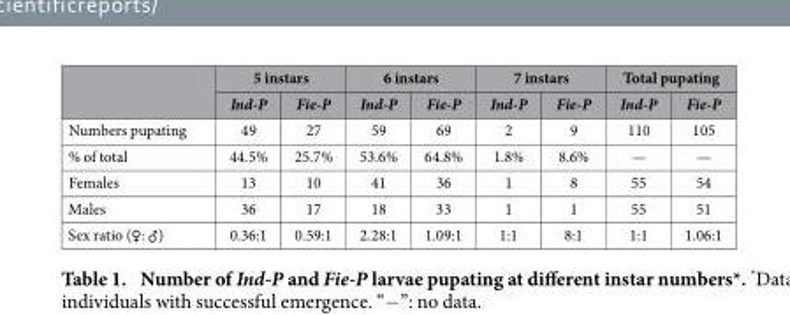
<table><thead><tr><td rowspan="2"></td><td colspan="2">5 instars</td><td colspan="2">6 instars</td><td colspan="2">7 instars</td><td colspan="2">Total pupating</td></tr><tr><td>Ind-P</td><td>Fie-P</td><td>Ind-P</td><td>Fie-P</td><td>Ind-P</td><td>Fie-P</td><td>Ind-P</td><td>Fie-P</td></tr></thead><tbody><tr><td>Numbers pupating</td><td>49</td><td>27</td><td>59</td><td>69</td><td>2</td><td>9</td><td>110</td><td>105</td></tr><tr><td>% of total</td><td>44.5%</td><td>25.7%</td><td>53.6%</td><td>64.8%</td><td>1.8%</td><td>8.6%</td><td>—</td><td>—</td></tr><tr><td>Females</td><td>13</td><td>10</td><td>41</td><td>36</td><td>1</td><td>8</td><td>55</td><td>54</td></tr><tr><td>Males</td><td>36</td><td>17</td><td>18</td><td>33</td><td>1</td><td>1</td><td>55</td><td>51</td></tr><tr><td>Sex ratio (♀ : ♂ )</td><td>0.36:1</td><td>0.59:1</td><td>2.28:1</td><td>1.09:1</td><td>1:1</td><td>8:1</td><td>1:1</td><td>1.06:1</td></tr></tbody></table>